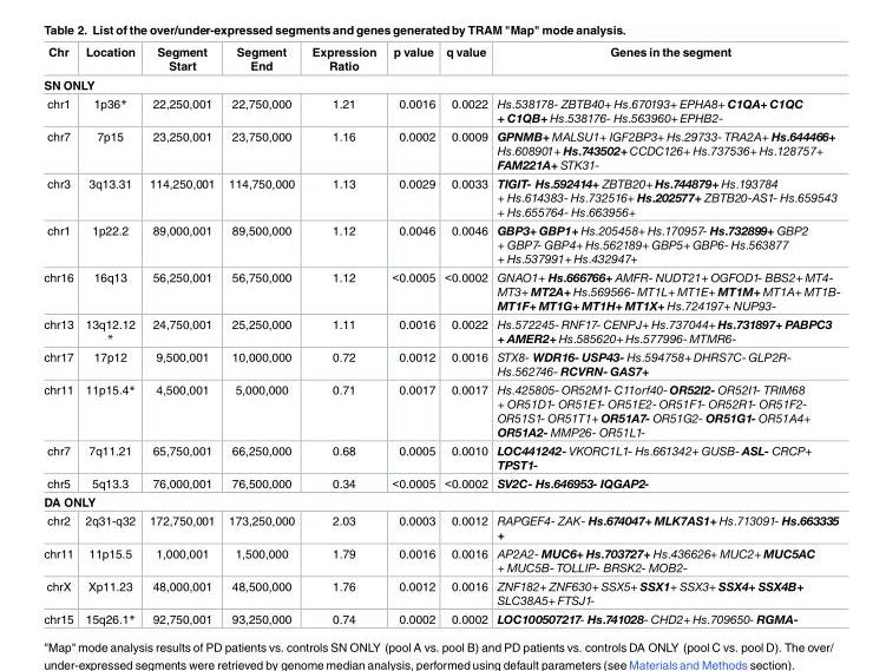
<table><thead><tr><td>Chr</td><td>Location</td><td>Segment Start</td><td>Segment End</td><td>Expression Ratio</td><td>p value</td><td>q value</td><td>Genes in the segment</td></tr></thead><tbody><tr><td colspan="8">SN ONLY</td></tr><tr><td>chr1</td><td>1p36*</td><td>22,250,001</td><td>22,750,000</td><td>1.21</td><td>0.0016</td><td>0.0022</td><td>Hs.538178- ZBTB40+ Hs.670193+ EPHA8+ C1QA+ C1QC + C1QB+ Hs.538176- Hs.563960+ EPHB2-</td></tr><tr><td>chr7</td><td>7p15</td><td>23,250,001</td><td>23,750,000</td><td>1.16</td><td>0.0002</td><td>0.0009</td><td>GPNMB+ MALSU1+ IGF2BP3+ Hs.29733- TRA2A+ Hs.644466+ Hs.608901+ Hs.743502+ CCDC126+ Hs.737536+ Hs.128757+ FAM221A+ STK31-</td></tr><tr><td>chr3</td><td>3q13.31</td><td>114,250,001</td><td>114,750,000</td><td>1.13</td><td>0.0029</td><td>0.0033</td><td>TIGIT- Hs.592414+ ZBTB20+ Hs.744879+ Hs.193784 + Hs.614383- Hs.732516+ Hs.202577+ ZBTB20-AS1- Hs.659543 + Hs.655764- Hs.663956+</td></tr><tr><td>chr1</td><td>1p22.2</td><td>89,000,001</td><td>89,500,000</td><td>1.12</td><td>0.0046</td><td>0.0046</td><td>GBP3+ GBP1+ Hs.205458+ Hs.170957- Hs.732899+ GBP2 + GBP7- GBP4+ Hs.562189+ GBP5+ GBP6- Hs.563877 + Hs.537991+ Hs.432947+</td></tr><tr><td>chr16</td><td>16q13</td><td>56,250,001</td><td>56,750,000</td><td>1.12</td><td>&lt;0.0005</td><td>&lt;0.0002</td><td>GNAO1+ Hs.666766+ AMFR- NUDT21+ OGFOD1- BBS2+ MT4- MT3+ MT2A+ Hs.569566- MT1L+ MT1E+ MT1M+ MT1A+ MT1B- MT1F+ MT1G+ MT1H+ MT1X+ Hs.724197+ NUP93-</td></tr><tr><td>chr13</td><td>13q12.12 *</td><td>24,750,001</td><td>25,250,000</td><td>1.11</td><td>0.0016</td><td>0.0022</td><td>Hs.572245- RNF17- CENPJ+ Hs.737044+ Hs.731897+ PABPC3 + AMER2+ Hs.585620+ Hs.577996- MTMR6-</td></tr><tr><td>chr17</td><td>17p12</td><td>9,500,001</td><td>10,000,000</td><td>0.72</td><td>0.0012</td><td>0.0016</td><td>STX8- WDR16- USP43- Hs.594758+ DHRS7C- GLP2R- Hs.562746- RCVRN- GAS7+</td></tr><tr><td>chr11</td><td>11p15.4*</td><td>4,500,001</td><td>5,000,000</td><td>0.71</td><td>0.0017</td><td>0.0017</td><td>Hs.425805- OR52M1- C11orf40- OR52I2- OR52I1- TRIM68 + OR51D1- OR51E1- OR51E2- OR51F1- OR52R1- OR51F2- OR51S1- OR51T1+ OR51A7- OR51G2- OR51G1- OR51A4+ OR51A2- MMP26- OR51L1-</td></tr><tr><td>chr7</td><td>7q11.21</td><td>65,750,001</td><td>66,250,000</td><td>0.68</td><td>0.0005</td><td>0.0010</td><td>LOC441242- VKORC1L1- Hs.661342+ GUSB- ASL- CRCP+ TPST1-</td></tr><tr><td>chr5</td><td>5q13.3</td><td>76,000,001</td><td>76,500,000</td><td>0.34</td><td>&lt;0.0005</td><td>&lt;0.0002</td><td>SV2C- Hs.646953- IQGAP2-</td></tr><tr><td colspan="8">DA ONLY</td></tr><tr><td>chr2</td><td>2q31-q32</td><td>172,750,001</td><td>173,250,000</td><td>2.03</td><td>0.0003</td><td>0.0012</td><td>RAPGEF4- ZAK- Hs.674047+ MLK7AS1+ Hs.713091- Hs.663335 +</td></tr><tr><td>chr11</td><td>11p15.5</td><td>1,000,001</td><td>1,500,000</td><td>1.79</td><td>0.0016</td><td>0.0016</td><td>AP2A2- MUC6+ Hs.703727+ Hs.436626+ MUC2+ MUC5AC + MUC5B- TOLLIP- BRSK2- MOB2-</td></tr><tr><td>chrX</td><td>Xp11.23</td><td>48,000,001</td><td>48,500,000</td><td>1.76</td><td>0.0012</td><td>0.0016</td><td>ZNF182+ ZNF630+ SSX5+ SSX1+ SSX3+ SSX4+ SSX4B+ SLC38A5+ FTSJ1-</td></tr><tr><td>chr15</td><td>15q26.1*</td><td>92,750,001</td><td>93,250,000</td><td>0.74</td><td>0.0002</td><td>0.0002</td><td>LOC100507217- Hs.741028- CHD2+ Hs.709650- RGMA-</td></tr></tbody></table>